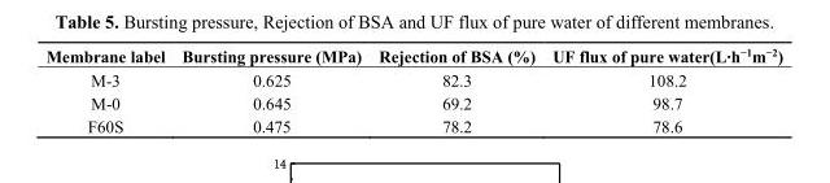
<table><thead><tr><td>Membrane label</td><td>Bursting pressure (MPa)</td><td>Rejection of BSA (%)</td><td>UF flux of pure water(L∙h<sup>−1</sup>m<sup>−2</sup>)</td></tr></thead><tbody><tr><td>M-3</td><td>0.625</td><td>82.3</td><td>108.2</td></tr><tr><td>M-0</td><td>0.645</td><td>69.2</td><td>98.7</td></tr><tr><td>F60S</td><td>0.475</td><td>78.2</td><td>78.6</td></tr></tbody></table>